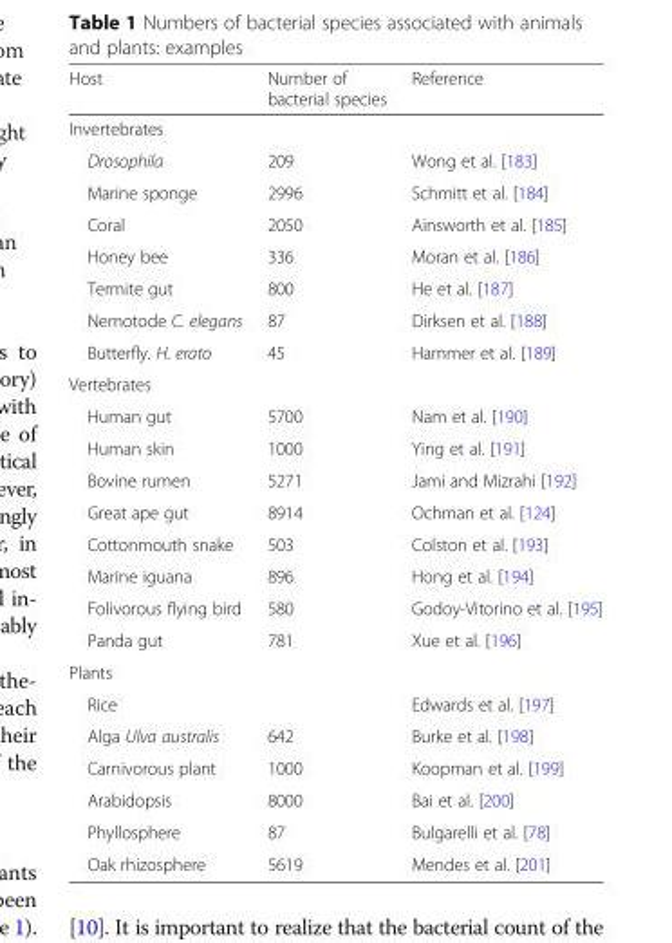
<table><thead><tr><td>Host</td><td>Number of bacterial species</td><td>Reference</td></tr></thead><tbody><tr><td colspan="3">Invertebrates</td></tr><tr><td>Drosophila</td><td>209</td><td>Wong et al. [183]</td></tr><tr><td>Marine sponge</td><td>2996</td><td>Schmitt et al. [184]</td></tr><tr><td>Coral</td><td>2050</td><td>Ainsworth et al. [185]</td></tr><tr><td>Honey bee</td><td>336</td><td>Moran et al. [186]</td></tr><tr><td>Termite gut</td><td>800</td><td>He et al. [187]</td></tr><tr><td>Nemotode C. elegans</td><td>87</td><td>Dirksen et al. [188]</td></tr><tr><td>Butterfly. H. erato</td><td>45</td><td>Hammer et al. [189]</td></tr><tr><td colspan="3">Vertebrates</td></tr><tr><td>Human gut</td><td>5700</td><td>Nam et al. [190]</td></tr><tr><td>Human skin</td><td>1000</td><td>Ying et al. [191]</td></tr><tr><td>Bovine rumen</td><td>5271</td><td>Jami and Mizrahi [192]</td></tr><tr><td>Great ape gut</td><td>8914</td><td>Ochman et al. [124]</td></tr><tr><td>Cottonmouth snake</td><td>503</td><td>Colston et al. [193]</td></tr><tr><td>Marine iguana</td><td>896</td><td>Hong et al. [194]</td></tr><tr><td>Folivorous flying bird</td><td>580</td><td>Godoy-Vitorino et al. [195]</td></tr><tr><td>Panda gut</td><td>781</td><td>Xue et al. [196]</td></tr><tr><td colspan="3">Plants</td></tr><tr><td>Rice</td><td></td><td>Edwards et al. [197]</td></tr><tr><td>Alga Ulva australis</td><td>642</td><td>Burke et al. [198]</td></tr><tr><td>Carnivorous plant</td><td>1000</td><td>Koopman et al. [199]</td></tr><tr><td>Arabidopsis</td><td>8000</td><td>Bai et al. [200]</td></tr><tr><td>Phyllosphere</td><td>87</td><td>Bulgarelli et al. [78]</td></tr><tr><td>Oak rhizosphere</td><td>5619</td><td>Mendes et al. [201]</td></tr></tbody></table>